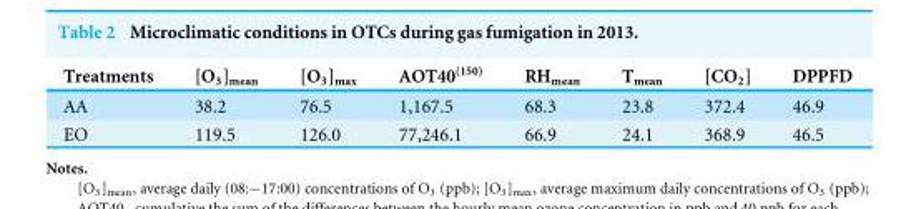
<table><thead><tr><td>Treatments</td><td>[O<sub>3</sub>]<sub>mean</sub></td><td>[O<sub>3</sub>]<sub>max</sub></td><td>AOT40<sup>(150)</sup></td><td>RH<sub>mean</sub></td><td>T<sub>mean</sub></td><td>[CO<sub>2</sub>]</td><td>DPPFD</td></tr></thead><tbody><tr><td>AA</td><td>38.2</td><td>76.5</td><td>1,167.5</td><td>68.3</td><td>23.8</td><td>372.4</td><td>46.9</td></tr><tr><td>EO</td><td>119.5</td><td>126.0</td><td>77,246.1</td><td>66.9</td><td>24.1</td><td>368.9</td><td>46.5</td></tr></tbody></table>